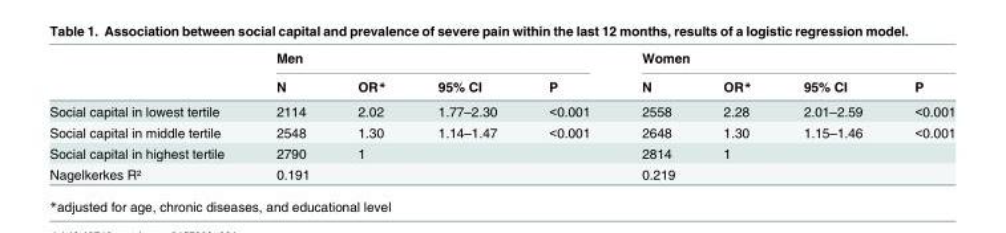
<table><thead><tr><td rowspan="2"></td><td colspan="4">Men</td><td colspan="4">Women</td></tr><tr><td>N</td><td>OR*</td><td>95% CI</td><td>P</td><td>N</td><td>OR*</td><td>95% CI</td><td>P</td></tr></thead><tbody><tr><td>Social capital in lowest tertile</td><td>2114</td><td>2.02</td><td>1.77–2.30</td><td>&lt;0.001</td><td>2558</td><td>2.28</td><td>2.01–2.59</td><td>&lt;0.001</td></tr><tr><td>Social capital in middle tertile</td><td>2548</td><td>1.30</td><td>1.14–1.47</td><td>&lt;0.001</td><td>2648</td><td>1.30</td><td>1.15–1.46</td><td>&lt;0.001</td></tr><tr><td>Social capital in highest tertile</td><td>2790</td><td>1</td><td></td><td></td><td>2814</td><td>1</td><td></td><td></td></tr><tr><td>Nagelkerkes R²</td><td colspan="4">0.191</td><td colspan="4">0.219</td></tr></tbody></table>